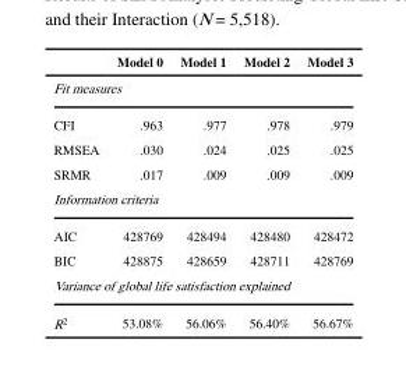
<table><thead><tr><td></td><td>Model 0</td><td>Model 1</td><td>Model 2</td><td>Model 3</td></tr></thead><tbody><tr><td colspan="5">Fit measures</td></tr><tr><td>CFI</td><td>.963</td><td>.977</td><td>.978</td><td>.979</td></tr><tr><td>RMSEA</td><td>.030</td><td>.024</td><td>.025</td><td>.025</td></tr><tr><td>SRMR</td><td>.017</td><td>.009</td><td>.009</td><td>.009</td></tr><tr><td colspan="5">Information criteria</td></tr><tr><td>AIC</td><td>428769</td><td>428494</td><td>428480</td><td>428472</td></tr><tr><td>BIC</td><td>428875</td><td>428659</td><td>428711</td><td>428769</td></tr><tr><td colspan="5">Variance of global life satisfaction explained</td></tr><tr><td>R<sup>2</sup></td><td>53.08%</td><td>56.06%</td><td>56.40%</td><td>56.67%</td></tr></tbody></table>